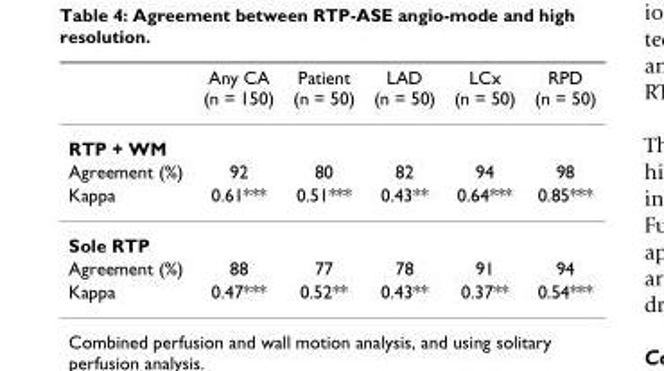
<table><thead><tr><td></td><td>Any CA (n = 150)</td><td>Patient (n = 50)</td><td>LAD (n = 50)</td><td>LCx (n = 50)</td><td>RPD (n = 50)</td></tr></thead><tbody><tr><td colspan="6">RTP + WM</td></tr><tr><td>Agreement (%)</td><td>92</td><td>80</td><td>82</td><td>94</td><td>98</td></tr><tr><td>Kappa</td><td>0.61***</td><td>0.51***</td><td>0.43**</td><td>0.64***</td><td>0.85***</td></tr><tr><td colspan="6">Sole RTP</td></tr><tr><td>Agreement (%)</td><td>88</td><td>77</td><td>78</td><td>91</td><td>94</td></tr><tr><td>Kappa</td><td>0.47***</td><td>0.52**</td><td>0.43**</td><td>0.37**</td><td>0.54***</td></tr></tbody></table>